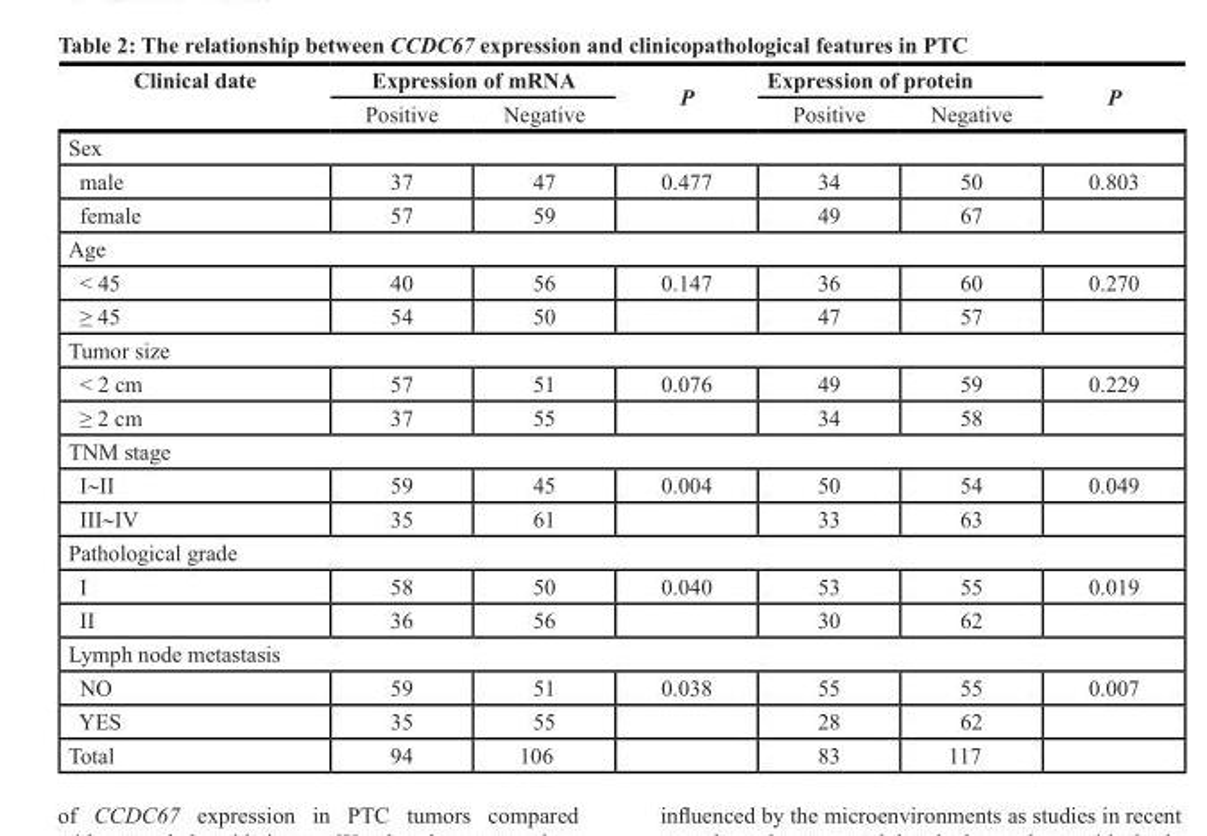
<table><thead><tr><td rowspan="2">Clinical date</td><td colspan="2">Expression of mRNA</td><td rowspan="2">P</td><td colspan="2">Expression of protein</td><td rowspan="2">P</td></tr><tr><td>Positive</td><td>Negative</td><td>Positive</td><td>Negative</td></tr></thead><tbody><tr><td colspan="7">Sex</td></tr><tr><td>male</td><td>37</td><td>47</td><td>0.477</td><td>34</td><td>50</td><td>0.803</td></tr><tr><td>female</td><td>57</td><td>59</td><td></td><td>49</td><td>67</td><td></td></tr><tr><td colspan="7">Age</td></tr><tr><td>&lt; 45</td><td>40</td><td>56</td><td>0.147</td><td>36</td><td>60</td><td>0.270</td></tr><tr><td>≥ 45</td><td>54</td><td>50</td><td></td><td>47</td><td>57</td><td></td></tr><tr><td colspan="7">Tumor size</td></tr><tr><td>&lt; 2 cm</td><td>57</td><td>51</td><td>0.076</td><td>49</td><td>59</td><td>0.229</td></tr><tr><td>≥ 2 cm</td><td>37</td><td>55</td><td></td><td>34</td><td>58</td><td></td></tr><tr><td colspan="7">TNM stage</td></tr><tr><td>I∼II</td><td>59</td><td>45</td><td>0.004</td><td>50</td><td>54</td><td>0.049</td></tr><tr><td>III∼IV</td><td>35</td><td>61</td><td></td><td>33</td><td>63</td><td></td></tr><tr><td colspan="7">Pathological grade</td></tr><tr><td>I</td><td>58</td><td>50</td><td>0.040</td><td>53</td><td>55</td><td>0.019</td></tr><tr><td>II</td><td>36</td><td>56</td><td></td><td>30</td><td>62</td><td></td></tr><tr><td colspan="7">Lymph node metastasis</td></tr><tr><td>NO</td><td>59</td><td>51</td><td>0.038</td><td>55</td><td>55</td><td>0.007</td></tr><tr><td>YES</td><td>35</td><td>55</td><td></td><td>28</td><td>62</td><td></td></tr><tr><td>Total</td><td>94</td><td>106</td><td></td><td>83</td><td>117</td><td></td></tr></tbody></table>